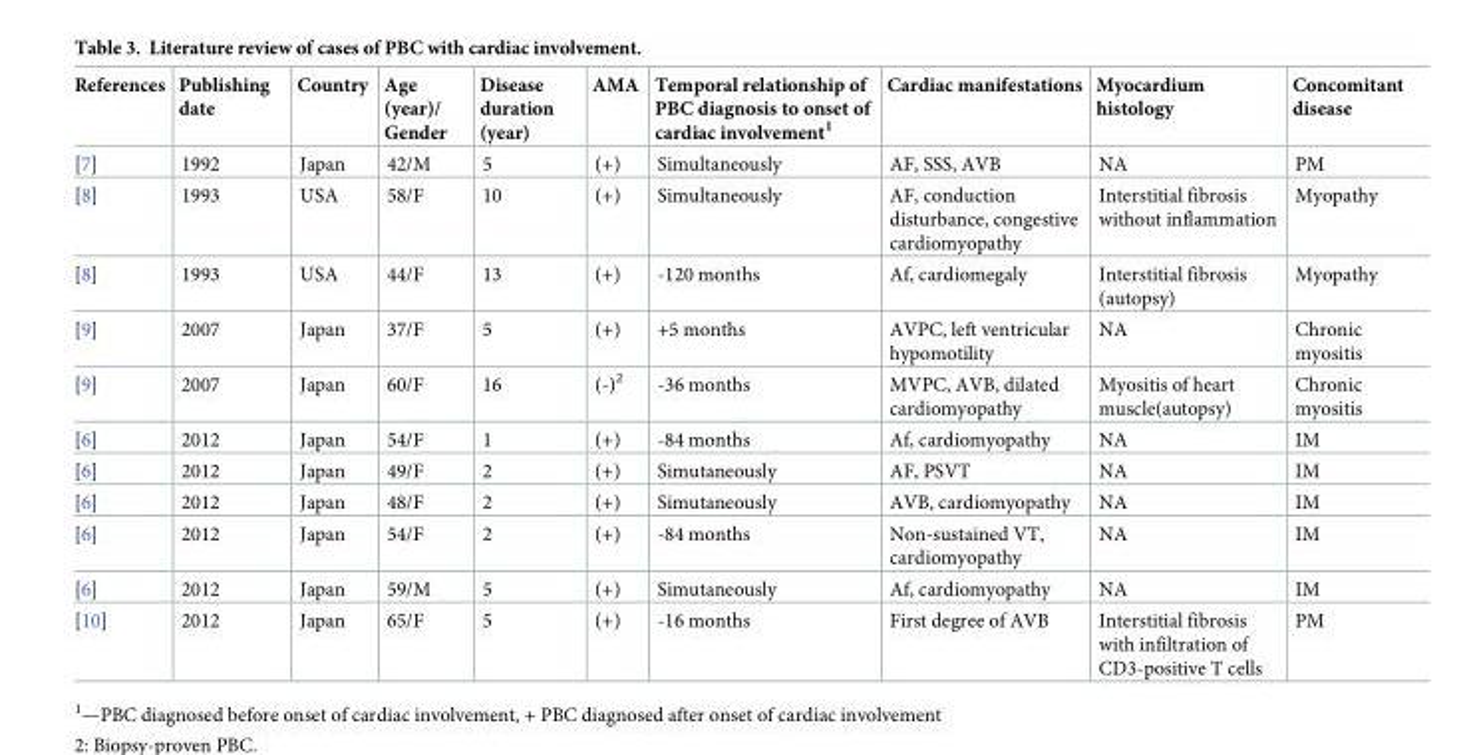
<table><thead><tr><td>References</td><td>Publishing date</td><td>Country</td><td>Age (year)/ Gender</td><td>Disease duration (year)</td><td>AMA</td><td>Temporal relationship of PBC diagnosis to onset of cardiac involvement<sup>1</sup></td><td>Cardiac manifestations</td><td>Myocardium histology</td><td>Concomitant disease</td></tr></thead><tbody><tr><td>[7]</td><td>1992</td><td>Japan</td><td>42/M</td><td>5</td><td>(+)</td><td>Simultaneously</td><td>AF, SSS, AVB</td><td>NA</td><td>PM</td></tr><tr><td>[8]</td><td>1993</td><td>USA</td><td>58/F</td><td>10</td><td>(+)</td><td>Simultaneously</td><td>AF, conduction disturbance, congestive cardiomyopathy</td><td>Interstitial fibrosis without inflammation</td><td>Myopathy</td></tr><tr><td>[8]</td><td>1993</td><td>USA</td><td>44/F</td><td>13</td><td>(+)</td><td>-120 months</td><td>Af, cardiomegaly</td><td>Interstitial fibrosis (autopsy)</td><td>Myopathy</td></tr><tr><td>[9]</td><td>2007</td><td>Japan</td><td>37/F</td><td>5</td><td>(+)</td><td>+5 months</td><td>AVPC, left ventricular hypomotility</td><td>NA</td><td>Chronic myositis</td></tr><tr><td>[9]</td><td>2007</td><td>Japan</td><td>60/F</td><td>16</td><td>(-)<sup>2</sup></td><td>-36 months</td><td>MVPC, AVB, dilated cardiomyopathy</td><td>Myositis of heart muscle(autopsy)</td><td>Chronic myositis</td></tr><tr><td>[6]</td><td>2012</td><td>Japan</td><td>54/F</td><td>1</td><td>(+)</td><td>-84 months</td><td>Af, cardiomyopathy</td><td>NA</td><td>IM</td></tr><tr><td>[6]</td><td>2012</td><td>Japan</td><td>49/F</td><td>2</td><td>(+)</td><td>Simutaneously</td><td>AF, PSVT</td><td>NA</td><td>IM</td></tr><tr><td>[6]</td><td>2012</td><td>Japan</td><td>48/F</td><td>2</td><td>(+)</td><td>Simutaneously</td><td>AVB, cardiomyopathy</td><td>NA</td><td>IM</td></tr><tr><td>[6]</td><td>2012</td><td>Japan</td><td>54/F</td><td>2</td><td>(+)</td><td>-84 months</td><td>Non-sustained VT, cardiomyopathy</td><td>NA</td><td>IM</td></tr><tr><td>[6]</td><td>2012</td><td>Japan</td><td>59/M</td><td>5</td><td>(+)</td><td>Simutaneously</td><td>Af, cardiomyopathy</td><td>NA</td><td>IM</td></tr><tr><td>[10]</td><td>2012</td><td>Japan</td><td>65/F</td><td>5</td><td>(+)</td><td>-16 months</td><td>First degree of AVB</td><td>Interstitial fibrosis with infiltration of CD3-positive T cells</td><td>PM</td></tr></tbody></table>